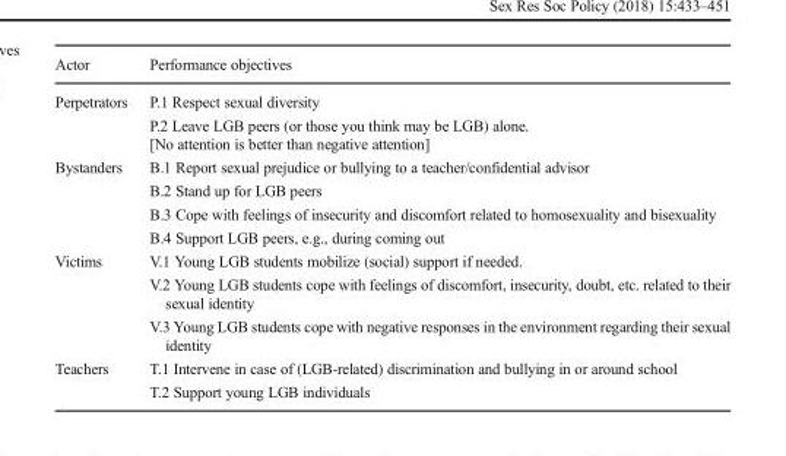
<table><thead><tr><td>Actor</td><td>Performance objectives</td></tr></thead><tbody><tr><td rowspan="2">Perpetrators</td><td>P.1 Respect sexual diversity</td></tr><tr><td>P.2 Leave LGB peers (or those you think may be LGB) alone. [No attention is better than negative attention]</td></tr><tr><td rowspan="4">Bystanders</td><td>B.1 Report sexual prejudice or bullying to a teacher/confidential advisor</td></tr><tr><td>B.2 Stand up for LGB peers</td></tr><tr><td>B.3 Cope with feelings of insecurity and discomfort related to homosexuality and bisexuality</td></tr><tr><td>B.4 Support LGB peers, e.g., during coming out</td></tr><tr><td rowspan="3">Victims</td><td>V.1 Young LGB students mobilize (social) support if needed.</td></tr><tr><td>V.2 Young LGB students cope with feelings of discomfort, insecurity, doubt, etc. related to their sexual identity</td></tr><tr><td>V.3 Young LGB students cope with negative responses in the environment regarding their sexual identity</td></tr><tr><td rowspan="2">Teachers</td><td>T.1 Intervene in case of (LGB-related) discrimination and bullying in or around school</td></tr><tr><td>T.2 Support young LGB individuals</td></tr></tbody></table>